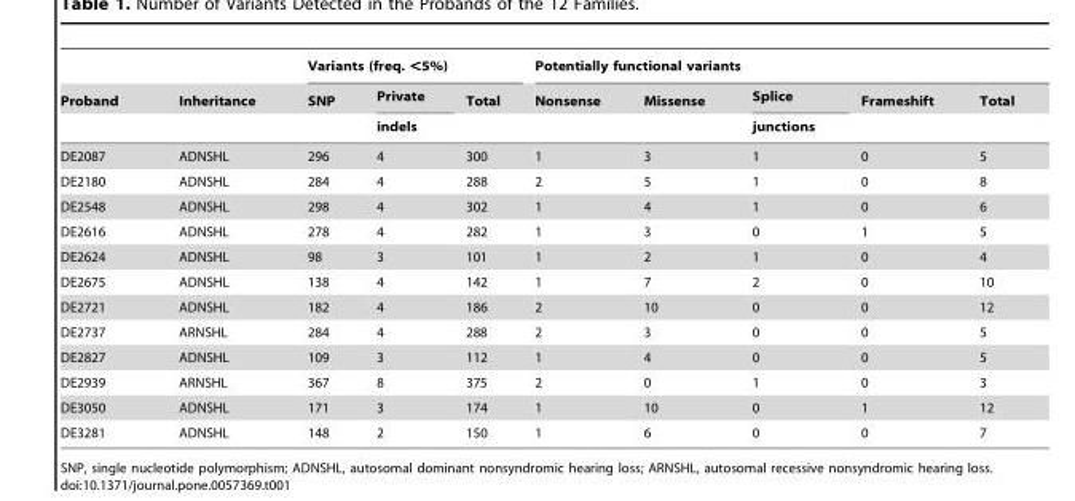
<table><thead><tr><td rowspan="3">Proband</td><td rowspan="3">Inheritance</td><td colspan="3">Variants (freq. &lt;5%)</td><td colspan="5">Potentially functional variants</td></tr><tr><td rowspan="2">SNP</td><td rowspan="2">Private indels</td><td rowspan="2">Total</td><td rowspan="2">Nonsense</td><td rowspan="2">Missense</td><td rowspan="2">Splice junctions</td><td rowspan="2">Frameshift</td><td rowspan="2">Total</td></tr><tr></tr></thead><tbody><tr><td>DE2087</td><td>ADNSHL</td><td>296</td><td>4</td><td>300</td><td>1</td><td>3</td><td>1</td><td>0</td><td>5</td></tr><tr><td>DE2180</td><td>ADNSHL</td><td>284</td><td>4</td><td>288</td><td>2</td><td>5</td><td>1</td><td>0</td><td>8</td></tr><tr><td>DE2548</td><td>ADNSHL</td><td>298</td><td>4</td><td>302</td><td>1</td><td>4</td><td>1</td><td>0</td><td>6</td></tr><tr><td>DE2616</td><td>ADNSHL</td><td>278</td><td>4</td><td>282</td><td>1</td><td>3</td><td>0</td><td>1</td><td>5</td></tr><tr><td>DE2624</td><td>ADNSHL</td><td>98</td><td>3</td><td>101</td><td>1</td><td>2</td><td>1</td><td>0</td><td>4</td></tr><tr><td>DE2675</td><td>ADNSHL</td><td>138</td><td>4</td><td>142</td><td>1</td><td>7</td><td>2</td><td>0</td><td>10</td></tr><tr><td>DE2721</td><td>ADNSHL</td><td>182</td><td>4</td><td>186</td><td>2</td><td>10</td><td>0</td><td>0</td><td>12</td></tr><tr><td>DE2737</td><td>ARNSHL</td><td>284</td><td>4</td><td>288</td><td>2</td><td>3</td><td>0</td><td>0</td><td>5</td></tr><tr><td>DE2827</td><td>ADNSHL</td><td>109</td><td>3</td><td>112</td><td>1</td><td>4</td><td>0</td><td>0</td><td>5</td></tr><tr><td>DE2939</td><td>ARNSHL</td><td>367</td><td>8</td><td>375</td><td>2</td><td>0</td><td>1</td><td>0</td><td>3</td></tr><tr><td>DE3050</td><td>ADNSHL</td><td>171</td><td>3</td><td>174</td><td>1</td><td>10</td><td>0</td><td>1</td><td>12</td></tr><tr><td>DE3281</td><td>ADNSHL</td><td>148</td><td>2</td><td>150</td><td>1</td><td>6</td><td>0</td><td>0</td><td>7</td></tr></tbody></table>